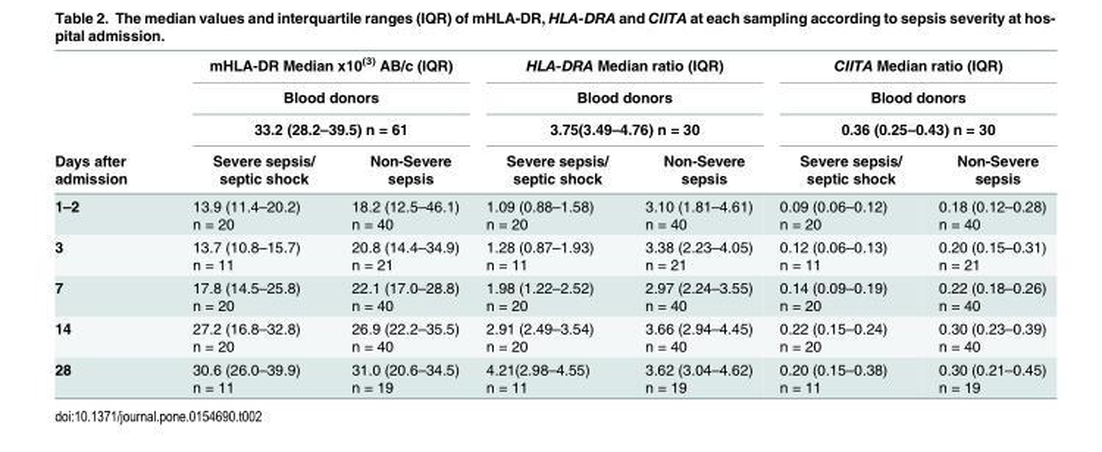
<table><thead><tr><td rowspan="4">Days after admission</td><td rowspan="3" colspan="2">mHLA-DR Median x10<sup>(3)</sup> AB/c (IQR) Blood donors 33.2 (28.2–39.5) n = 61</td><td rowspan="3" colspan="2">HLA-DRA Median ratio (IQR) Blood donors 3.75(3.49–4.76) n = 30</td><td rowspan="3" colspan="2">CIITA Median ratio (IQR) Blood donors 0.36 (0.25–0.43) n = 30</td></tr><tr></tr><tr></tr><tr><td>Severe sepsis/ septic shock</td><td>Non-Severe sepsis</td><td>Severe sepsis/ septic shock</td><td>Non-Severe sepsis</td><td>Severe sepsis/ septic shock</td><td>Non-Severe sepsis</td></tr></thead><tbody><tr><td>1–2</td><td>13.9 (11.4–20.2) n = 20</td><td>18.2 (12.5–46.1) n = 40</td><td>1.09 (0.88–1.58) n = 20</td><td>3.10 (1.81–4.61) n = 40</td><td>0.09 (0.06–0.12) n = 20</td><td>0.18 (0.12–0.28) n = 40</td></tr><tr><td>3</td><td>13.7 (10.8–15.7) n = 11</td><td>20.8 (14.4–34.9) n = 21</td><td>1.28 (0.87–1.93) n = 11</td><td>3.38 (2.23–4.05) n = 21</td><td>0.12 (0.06–0.13) n = 11</td><td>0.20 (0.15–0.31) n = 21</td></tr><tr><td>7</td><td>17.8 (14.5–25.8) n = 20</td><td>22.1 (17.0–28.8) n = 40</td><td>1.98 (1.22–2.52) n = 20</td><td>2.97 (2.24–3.55) n = 40</td><td>0.14 (0.09–0.19) n = 20</td><td>0.22 (0.18–0.26) n = 40</td></tr><tr><td>14</td><td>27.2 (16.8–32.8) n = 20</td><td>26.9 (22.2–35.5) n = 40</td><td>2.91 (2.49–3.54) n = 20</td><td>3.66 (2.94–4.45) n = 40</td><td>0.22 (0.15–0.24) n = 20</td><td>0.30 (0.23–0.39) n = 40</td></tr><tr><td>28</td><td>30.6 (26.0–39.9) n = 11</td><td>31.0 (20.6–34.5) n = 19</td><td>4.21(2.98–4.55) n = 11</td><td>3.62 (3.04–4.62) n = 19</td><td>0.20 (0.15–0.38) n = 11</td><td>0.30 (0.21–0.45) n = 19</td></tr></tbody></table>